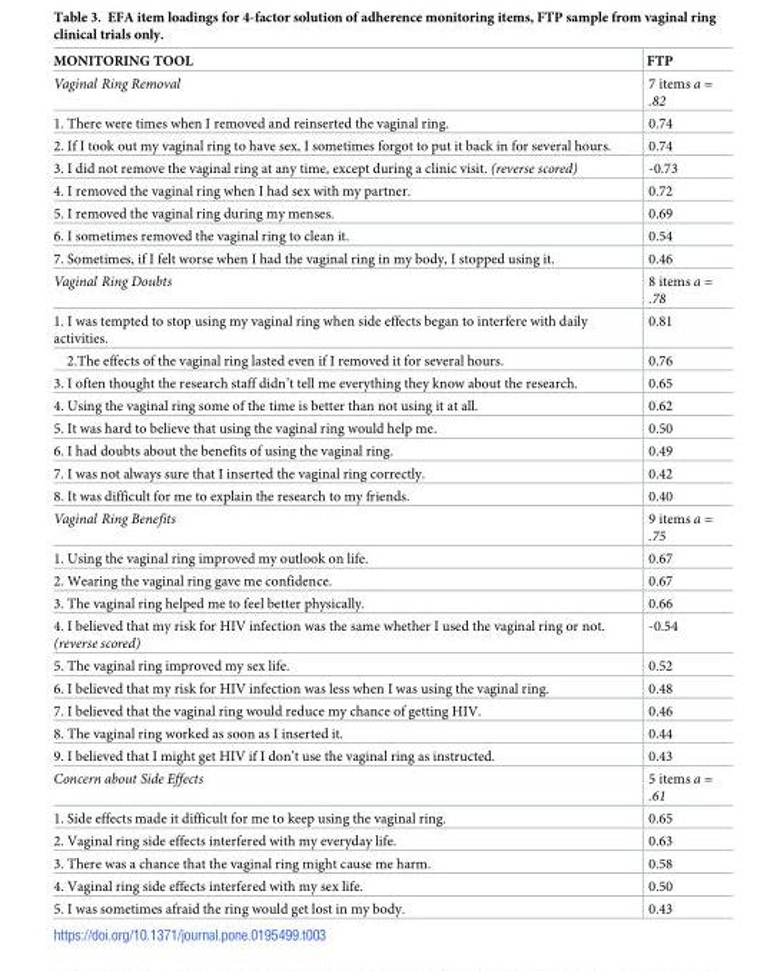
<table><thead><tr><td>MONITORING TOOL</td><td>FTP</td></tr></thead><tbody><tr><td>Vaginal Ring Removal</td><td>7 items a = .82</td></tr><tr><td>1. There were times when I removed and reinserted the vaginal ring.</td><td>0.74</td></tr><tr><td>2. If I took out my vaginal ring to have sex, I sometimes forgot to put it back in for several hours.</td><td>0.74</td></tr><tr><td>3. I did not remove the vaginal ring at any time, except during a clinic visit. (reverse scored)</td><td>-0.73</td></tr><tr><td>4. I removed the vaginal ring when I had sex with my partner.</td><td>0.72</td></tr><tr><td>5. I removed the vaginal ring during my menses.</td><td>0.69</td></tr><tr><td>6. I sometimes removed the vaginal ring to clean it.</td><td>0.54</td></tr><tr><td>7. Sometimes, if I felt worse when I had the vaginal ring in my body, I stopped using it.</td><td>0.46</td></tr><tr><td>Vaginal Ring Doubts</td><td>8 items a = .78</td></tr><tr><td>1. I was tempted to stop using my vaginal ring when side effects began to interfere with daily activities.</td><td>0.81</td></tr><tr><td>2.The effects of the vaginal ring lasted even if I removed it for several hours.</td><td>0.76</td></tr><tr><td>3. I often thought the research staff didn’t tell me everything they know about the research.</td><td>0.65</td></tr><tr><td>4. Using the vaginal ring some of the time is better than not using it at all.</td><td>0.62</td></tr><tr><td>5. It was hard to believe that using the vaginal ring would help me.</td><td>0.50</td></tr><tr><td>6. I had doubts about the benefits of using the vaginal ring.</td><td>0.49</td></tr><tr><td>7. I was not always sure that I inserted the vaginal ring correctly.</td><td>0.42</td></tr><tr><td>8. It was difficult for me to explain the research to my friends.</td><td>0.40</td></tr><tr><td>Vaginal Ring Benefits</td><td>9 items a = .75</td></tr><tr><td>1. Using the vaginal ring improved my outlook on life.</td><td>0.67</td></tr><tr><td>2. Wearing the vaginal ring gave me confidence.</td><td>0.67</td></tr><tr><td>3. The vaginal ring helped me to feel better physically.</td><td>0.66</td></tr><tr><td>4. I believed that my risk for HIV infection was the same whether I used the vaginal ring or not. (reverse scored)</td><td>-0.54</td></tr><tr><td>5. The vaginal ring improved my sex life.</td><td>0.52</td></tr><tr><td>6. I believed that my risk for HIV infection was less when I was using the vaginal ring.</td><td>0.48</td></tr><tr><td>7. I believed that the vaginal ring would reduce my chance of getting HIV.</td><td>0.46</td></tr><tr><td>8. The vaginal ring worked as soon as I inserted it.</td><td>0.44</td></tr><tr><td>9. I believed that I might get HIV if I don’t use the vaginal ring as instructed.</td><td>0.43</td></tr><tr><td>Concern about Side Effects</td><td>5 items a = .61</td></tr><tr><td>1. Side effects made it difficult for me to keep using the vaginal ring.</td><td>0.65</td></tr><tr><td>2. Vaginal ring side effects interfered with my everyday life.</td><td>0.63</td></tr><tr><td>3. There was a chance that the vaginal ring might cause me harm.</td><td>0.58</td></tr><tr><td>4. Vaginal ring side effects interfered with my sex life.</td><td>0.50</td></tr><tr><td>5. I was sometimes afraid the ring would get lost in my body.</td><td>0.43</td></tr></tbody></table>